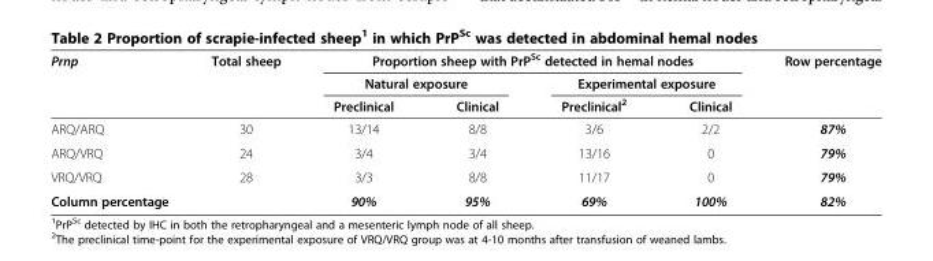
<table><thead><tr><td rowspan="3">Prnp</td><td rowspan="3">Total sheep</td><td colspan="4">Proportion sheep with PrP<sup>Sc</sup> detected in hemal nodes</td><td rowspan="3">Row percentage</td></tr><tr><td colspan="2">Natural exposure</td><td colspan="2">Experimental exposure</td></tr><tr><td>Preclinical</td><td>Clinical</td><td>Preclinical<sup>2</sup></td><td>Clinical</td></tr></thead><tbody><tr><td>ARQ/ARQ</td><td>30</td><td>13/14</td><td>8/8</td><td>3/6</td><td>2/2</td><td>87%</td></tr><tr><td>ARQ/VRQ</td><td>24</td><td>3/4</td><td>3/4</td><td>13/16</td><td>0</td><td>79%</td></tr><tr><td>VRQ/VRQ</td><td>28</td><td>3/3</td><td>8/8</td><td>11/17</td><td>0</td><td>79%</td></tr><tr><td>Column percentage</td><td></td><td>90%</td><td>95%</td><td>69%</td><td>100%</td><td>82%</td></tr></tbody></table>